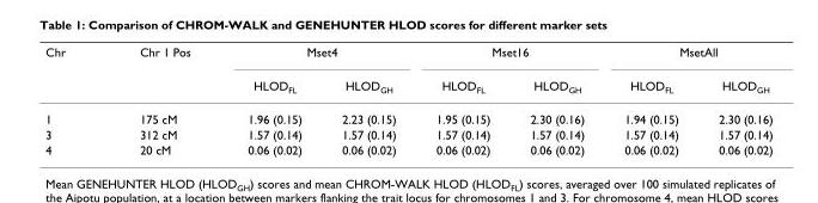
<table><thead><tr><td rowspan="2">Chr</td><td rowspan="2">Chr 1 Pos</td><td colspan="2">Mset4</td><td colspan="2">Mset16</td><td colspan="2">MsetAll</td></tr><tr><td>HLODFL</td><td>HLODGH</td><td>HLODFL</td><td>HLODGH</td><td>HLODFL</td><td>HLODGH</td></tr></thead><tbody><tr><td>1</td><td>175 cM</td><td>1.96 (0.15)</td><td>2.23 (0.15)</td><td>1.95 (0.15)</td><td>2.30 (0.16)</td><td>1.94 (0.15)</td><td>2.30 (0.16)</td></tr><tr><td>3</td><td>312 cM</td><td>1.57 (0.14)</td><td>1.57 (0.14)</td><td>1.57 (0.14)</td><td>1.57 (0.14)</td><td>1.57 (0.14)</td><td>1.57 (0.14)</td></tr><tr><td>4</td><td>20 cM</td><td>0.06 (0.02)</td><td>0.06 (0.02)</td><td>0.06 (0.02)</td><td>0.06 (0.02)</td><td>0.06 (0.02)</td><td>0.06 (0.02)</td></tr></tbody></table>